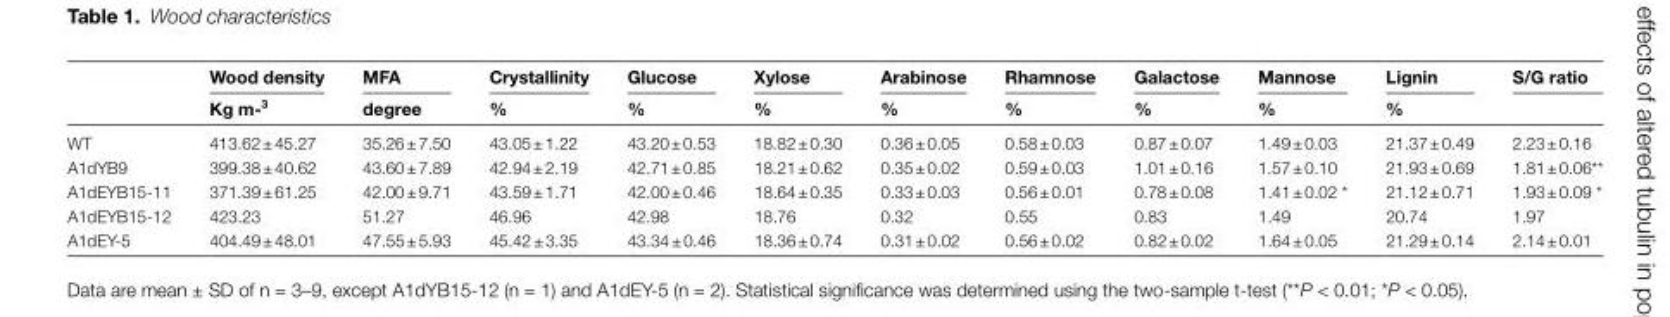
<table><thead><tr><td rowspan="2"></td><td rowspan="2">Wood density Kg m-<sup>3</sup></td><td rowspan="2">MFA degree</td><td rowspan="2">Crystallinity %</td><td rowspan="2">Glucose %</td><td rowspan="2">Xylose %</td><td rowspan="2">Arabinose %</td><td rowspan="2">Rhamnose %</td><td rowspan="2">Galactose %</td><td rowspan="2">Mannose %</td><td rowspan="2">Lignin %</td><td rowspan="2">S/G ratio</td></tr><tr></tr></thead><tbody><tr><td>WT</td><td>413.62 ± 45.27</td><td>35.26 ± 7.50</td><td>43.05 ± 1.22</td><td>43.20 ± 0.53</td><td>18.82 ± 0.30</td><td>0.36 ± 0.05</td><td>0.58 ± 0.03</td><td>0.87 ± 0.07</td><td>1.49 ± 0.03</td><td>21.37 ± 0.49</td><td>2.23 ± 0.16</td></tr><tr><td>A1dYB9</td><td>399.38 ± 40.62</td><td>43.60 ± 7.89</td><td>42.94 ± 2.19</td><td>42.71 ± 0.85</td><td>18.21 ± 0.62</td><td>0.35 ± 0.02</td><td>0.59 ± 0.03</td><td>1.01 ± 0.16</td><td>1.57 ± 0.10</td><td>21.93 ± 0.69</td><td>1.81 ± 0.06**</td></tr><tr><td>A1dEYB15-11</td><td>371.39 ± 61.25</td><td>42.00 ± 9.71</td><td>43.59 ± 1.71</td><td>42.00 ± 0.46</td><td>18.64 ± 0.35</td><td>0.33 ± 0.03</td><td>0.56 ± 0.01</td><td>0.78 ± 0.08</td><td>1.41 ± 0.02 *</td><td>21.12 ± 0.71</td><td>1.93 ± 0.09 *</td></tr><tr><td>A1dEYB15-12</td><td>423.23</td><td>51.27</td><td>46.96</td><td>42.98</td><td>18.76</td><td>0.32</td><td>0.55</td><td>0.83</td><td>1.49</td><td>20.74</td><td>1.97</td></tr><tr><td>A1dEY-5</td><td>404.49 ± 48.01</td><td>47.55 ± 5.93</td><td>45.42 ± 3.35</td><td>43.34 ± 0.46</td><td>18.36 ± 0.74</td><td>0.31 ± 0.02</td><td>0.56 ± 0.02</td><td>0.82 ± 0.02</td><td>1.64 ± 0.05</td><td>21.29 ± 0.14</td><td>2.14 ± 0.01</td></tr></tbody></table>